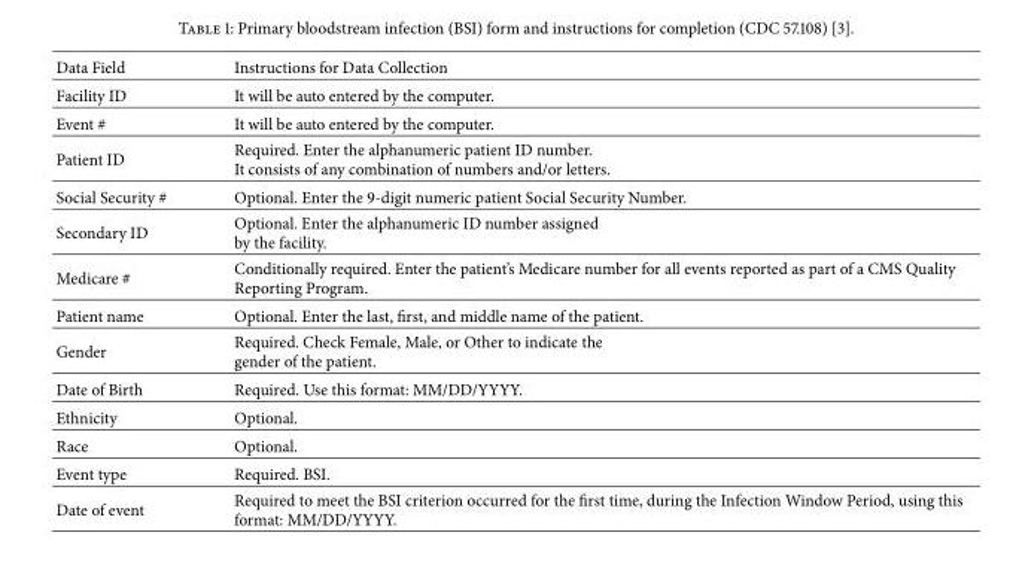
<table><thead><tr><td>Data Field</td><td>Instructions for Data Collection</td></tr></thead><tbody><tr><td>Facility ID</td><td>It will be auto entered by the computer.</td></tr><tr><td>Event #</td><td>It will be auto entered by the computer.</td></tr><tr><td>Patient ID</td><td>Required. Enter the alphanumeric patient ID number. It consists of any combination of numbers and/or letters.</td></tr><tr><td>Social Security #</td><td>Optional. Enter the 9-digit numeric patient Social Security Number.</td></tr><tr><td>Secondary ID</td><td>Optional. Enter the alphanumeric ID number assigned by the facility.</td></tr><tr><td>Medicare #</td><td>Conditionally required. Enter the patient’s Medicare number for all events reported as part of a CMS Quality Reporting Program.</td></tr><tr><td>Patient name</td><td>Optional. Enter the last, first, and middle name of the patient.</td></tr><tr><td>Gender</td><td>Required. Check Female, Male, or Other to indicate the gender of the patient.</td></tr><tr><td>Date of Birth</td><td>Required. Use this format: MM/DD/YYYY.</td></tr><tr><td>Ethnicity</td><td>Optional.</td></tr><tr><td>Race</td><td>Optional.</td></tr><tr><td>Event type</td><td>Required. BSI.</td></tr><tr><td>Date of event</td><td>Required to meet the BSI criterion occurred for the first time, during the Infection Window Period, using this format: MM/DD/YYYY.</td></tr></tbody></table>